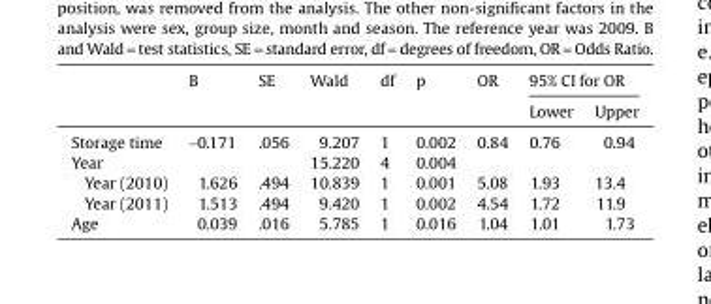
<table><thead><tr><td rowspan="2"></td><td rowspan="2">B</td><td rowspan="2">SE</td><td rowspan="2">Wald</td><td rowspan="2">df</td><td rowspan="2">p</td><td rowspan="2">OR</td><td colspan="2">95% CI for OR</td></tr><tr><td>Lower</td><td>Upper</td></tr></thead><tbody><tr><td>Storage time</td><td>−0.171</td><td>.056</td><td>9.207</td><td>1</td><td>0.002</td><td>0.84</td><td>0.76</td><td>0.94</td></tr><tr><td>Year</td><td></td><td></td><td>15.220</td><td>4</td><td>0.004</td><td></td><td></td><td></td></tr><tr><td>Year (2010)</td><td>1.626</td><td>.494</td><td>10.839</td><td>1</td><td>0.001</td><td>5.08</td><td>1.93</td><td>13.4</td></tr><tr><td>Year (2011)</td><td>1.513</td><td>.494</td><td>9.420</td><td>1</td><td>0.002</td><td>4.54</td><td>1.72</td><td>11.9</td></tr><tr><td>Age</td><td>0.039</td><td>.016</td><td>5.785</td><td>1</td><td>0.016</td><td>1.04</td><td>1.01</td><td>1.73</td></tr></tbody></table>